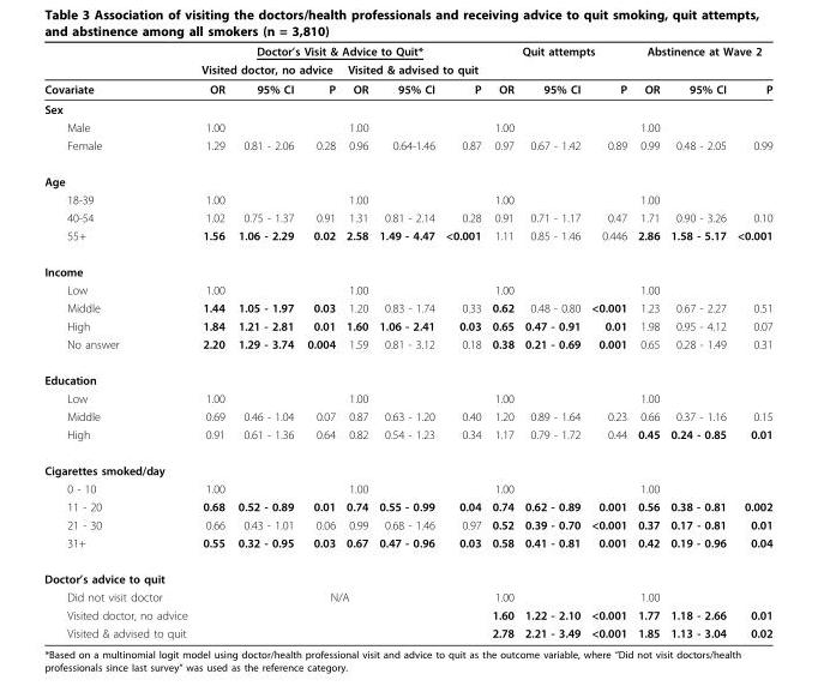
<table><thead><tr><td rowspan="3">Covariate</td><td colspan="6">Doctor’s Visit &amp; Advice to Quit*</td><td colspan="3">Quit attempts</td><td colspan="3">Abstinence at Wave 2</td></tr><tr><td colspan="3">Visited doctor, no advice</td><td colspan="3">Visited &amp; advised to quit</td><td rowspan="2">OR</td><td rowspan="2">95% CI</td><td rowspan="2">P</td><td rowspan="2">OR</td><td rowspan="2">95% CI</td><td rowspan="2">P</td></tr><tr><td>OR</td><td>95% CI</td><td>P</td><td>OR</td><td>95% CI</td><td>P</td></tr></thead><tbody><tr><td colspan="13">Sex</td></tr><tr><td>Male</td><td>1.00</td><td></td><td></td><td>1.00</td><td></td><td></td><td>1.00</td><td></td><td></td><td>1.00</td><td></td><td></td></tr><tr><td>Female</td><td>1.29</td><td>0.81 - 2.06</td><td>0.28</td><td>0.96</td><td>0.64-1.46</td><td>0.87</td><td>0.97</td><td>0.67 - 1.42</td><td>0.89</td><td>0.99</td><td>0.48 - 2.05</td><td>0.99</td></tr><tr><td colspan="13">Age</td></tr><tr><td>18-39</td><td>1.00</td><td></td><td></td><td>1.00</td><td></td><td></td><td>1.00</td><td></td><td></td><td>1.00</td><td></td><td></td></tr><tr><td>40-54</td><td>1.02</td><td>0.75 - 1.37</td><td>0.91</td><td>1.31</td><td>0.81 - 2.14</td><td>0.28</td><td>0.91</td><td>0.71 - 1.17</td><td>0.47</td><td>1.71</td><td>0.90 - 3.26</td><td>0.10</td></tr><tr><td>55+</td><td>1.56</td><td>1.06 - 2.29</td><td>0.02</td><td>2.58</td><td>1.49 - 4.47</td><td>&lt;0.001</td><td>1.11</td><td>0.85 - 1.46</td><td>0.446</td><td>2.86</td><td>1.58 - 5.17</td><td>&lt;0.001</td></tr><tr><td colspan="13">Income</td></tr><tr><td>Low</td><td>1.00</td><td></td><td></td><td>1.00</td><td></td><td></td><td>1.00</td><td></td><td></td><td>1.00</td><td></td><td></td></tr><tr><td>Middle</td><td>1.44</td><td>1.05 - 1.97</td><td>0.03</td><td>1.20</td><td>0.83 - 1.74</td><td>0.33</td><td>0.62</td><td>0.48 - 0.80</td><td>&lt;0.001</td><td>1.23</td><td>0.67 - 2.27</td><td>0.51</td></tr><tr><td>High</td><td>1.84</td><td>1.21 - 2.81</td><td>0.01</td><td>1.60</td><td>1.06 - 2.41</td><td>0.03</td><td>0.65</td><td>0.47 - 0.91</td><td>0.01</td><td>1.98</td><td>0.95 - 4.12</td><td>0.07</td></tr><tr><td>No answer</td><td>2.20</td><td>1.29 - 3.74</td><td>0.004</td><td>1.59</td><td>0.81 - 3.12</td><td>0.18</td><td>0.38</td><td>0.21 - 0.69</td><td>0.001</td><td>0.65</td><td>0.28 - 1.49</td><td>0.31</td></tr><tr><td colspan="13">Education</td></tr><tr><td>Low</td><td>1.00</td><td></td><td></td><td>1.00</td><td></td><td></td><td>1.00</td><td></td><td></td><td>1.00</td><td></td><td></td></tr><tr><td>Middle</td><td>0.69</td><td>0.46 - 1.04</td><td>0.07</td><td>0.87</td><td>0.63 - 1.20</td><td>0.40</td><td>1.20</td><td>0.89 - 1.64</td><td>0.23</td><td>0.66</td><td>0.37 - 1.16</td><td>0.15</td></tr><tr><td>High</td><td>0.91</td><td>0.61 - 1.36</td><td>0.64</td><td>0.82</td><td>0.54 - 1.23</td><td>0.34</td><td>1.17</td><td>0.79 - 1.72</td><td>0.44</td><td>0.45</td><td>0.24 - 0.85</td><td>0.01</td></tr><tr><td colspan="13">Cigarettes smoked/day</td></tr><tr><td>0 - 10</td><td>1.00</td><td></td><td></td><td>1.00</td><td></td><td></td><td>1.00</td><td></td><td></td><td>1.00</td><td></td><td></td></tr><tr><td>11 - 20</td><td>0.68</td><td>0.52 - 0.89</td><td>0.01</td><td>0.74</td><td>0.55 - 0.99</td><td>0.04</td><td>0.74</td><td>0.62 - 0.89</td><td>0.001</td><td>0.56</td><td>0.38 - 0.81</td><td>0.002</td></tr><tr><td>21 - 30</td><td>0.66</td><td>0.43 - 1.01</td><td>0.06</td><td>0.99</td><td>0.68 - 1.46</td><td>0.97</td><td>0.52</td><td>0.39 - 0.70</td><td>&lt;0.001</td><td>0.37</td><td>0.17 - 0.81</td><td>0.01</td></tr><tr><td>31+</td><td>0.55</td><td>0.32 - 0.95</td><td>0.03</td><td>0.67</td><td>0.47 - 0.96</td><td>0.03</td><td>0.58</td><td>0.41 - 0.81</td><td>0.001</td><td>0.42</td><td>0.19 - 0.96</td><td>0.04</td></tr><tr><td colspan="13">Doctor’s advice to quit</td></tr><tr><td>Did not visit doctor</td><td colspan="6">N/A</td><td>1.00</td><td></td><td></td><td>1.00</td><td></td><td></td></tr><tr><td>Visited doctor, no advice</td><td></td><td></td><td></td><td></td><td></td><td></td><td>1.60</td><td>1.22 - 2.10</td><td>&lt;0.001</td><td>1.77</td><td>1.18 - 2.66</td><td>0.01</td></tr><tr><td>Visited &amp; advised to quit</td><td></td><td></td><td></td><td></td><td></td><td></td><td>2.78</td><td>2.21 - 3.49</td><td>&lt;0.001</td><td>1.85</td><td>1.13 - 3.04</td><td>0.02</td></tr></tbody></table>